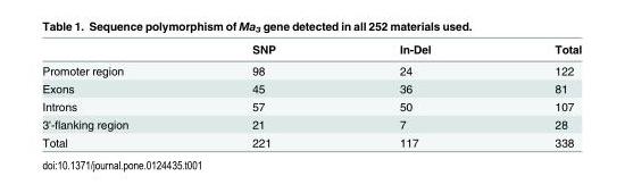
<table><thead><tr><td></td><td>SNP</td><td>In-Del</td><td>Total</td></tr></thead><tbody><tr><td>Promoter region</td><td>98</td><td>24</td><td>122</td></tr><tr><td>Exons</td><td>45</td><td>36</td><td>81</td></tr><tr><td>Introns</td><td>57</td><td>50</td><td>107</td></tr><tr><td>3&#x27;-flanking region</td><td>21</td><td>7</td><td>28</td></tr><tr><td>Total</td><td>221</td><td>117</td><td>338</td></tr></tbody></table>